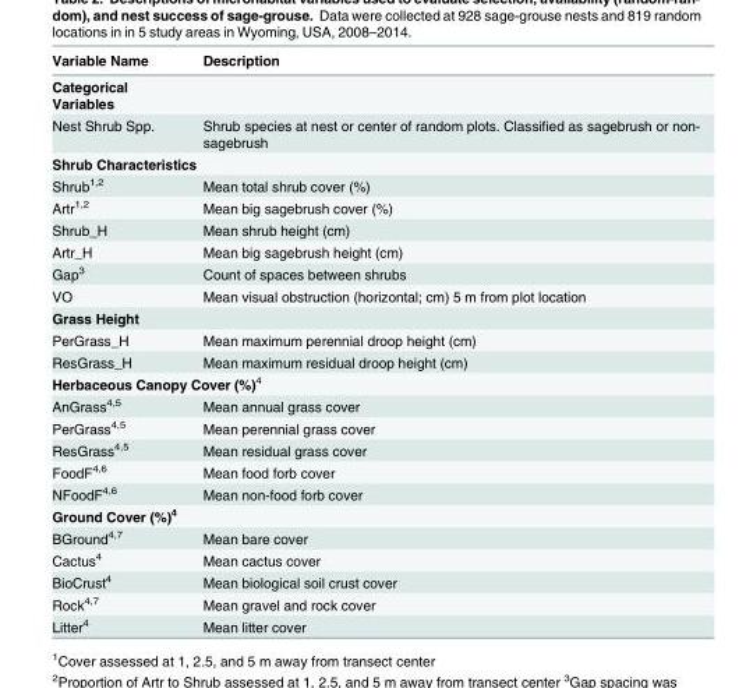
<table><thead><tr><td>Variable Name</td><td>Description</td></tr></thead><tbody><tr><td colspan="2">Categorical Variables</td></tr><tr><td>Nest Shrub Spp.</td><td>Shrub species at nest or center of random plots. Classified as sagebrush or non- sagebrush</td></tr><tr><td colspan="2">Shrub Characteristics</td></tr><tr><td>Shrub<sup>1,2</sup></td><td>Mean total shrub cover (%)</td></tr><tr><td>Artr<sup>1,2</sup></td><td>Mean big sagebrush cover (%)</td></tr><tr><td>Shrub_H</td><td>Mean shrub height (cm)</td></tr><tr><td>Artr_H</td><td>Mean big sagebrush height (cm)</td></tr><tr><td>Gap<sup>3</sup></td><td>Count of spaces between shrubs</td></tr><tr><td>VO</td><td>Mean visual obstruction (horizontal; cm) 5 m from plot location</td></tr><tr><td colspan="2">Grass Height</td></tr><tr><td>PerGrass_H</td><td>Mean maximum perennial droop height (cm)</td></tr><tr><td>ResGrass_H</td><td>Mean maximum residual droop height (cm)</td></tr><tr><td colspan="2">Herbaceous Canopy Cover (%)<sup>4</sup></td></tr><tr><td>AnGrass<sup>4,5</sup></td><td>Mean annual grass cover</td></tr><tr><td>PerGrass<sup>4,5</sup></td><td>Mean perennial grass cover</td></tr><tr><td>ResGrass<sup>4,5</sup></td><td>Mean residual grass cover</td></tr><tr><td>FoodF<sup>4,6</sup></td><td>Mean food forb cover</td></tr><tr><td>NFoodF<sup>4,6</sup></td><td>Mean non-food forb cover</td></tr><tr><td colspan="2">Ground Cover (%)<sup>4</sup></td></tr><tr><td>BGround<sup>4,7</sup></td><td>Mean bare cover</td></tr><tr><td>Cactus<sup>4</sup></td><td>Mean cactus cover</td></tr><tr><td>BioCrust<sup>4</sup></td><td>Mean biological soil crust cover</td></tr><tr><td>Rock<sup>4,7</sup></td><td>Mean gravel and rock cover</td></tr><tr><td>Litter<sup>4</sup></td><td>Mean litter cover</td></tr></tbody></table>